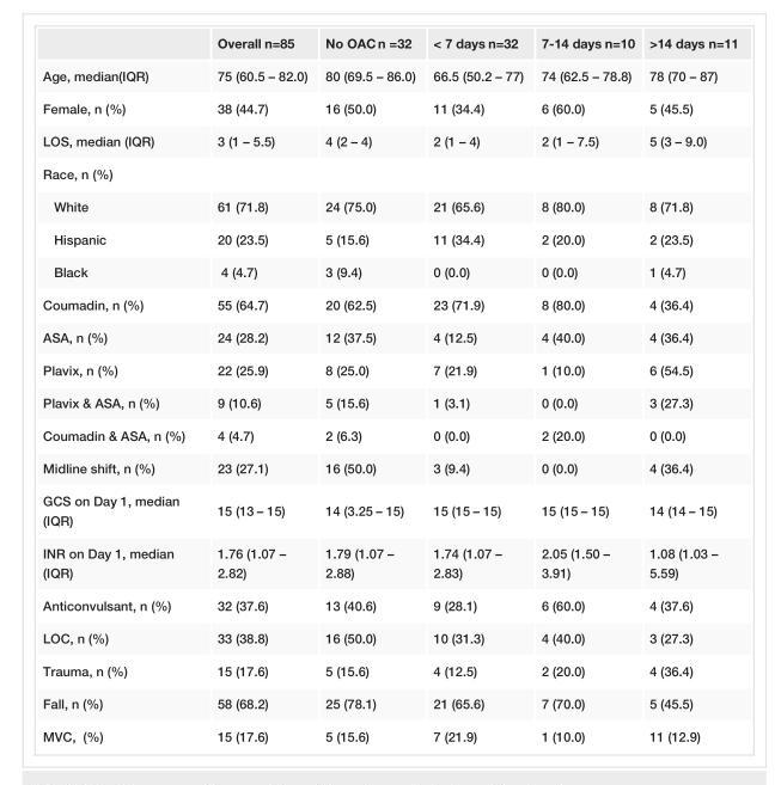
<table><thead><tr><td></td><td>Overall n=85</td><td>No OAC n =32</td><td>&lt; 7 days n=32</td><td>7-14 days n=10</td><td>&gt;14 days n=11</td></tr></thead><tbody><tr><td>Age, median(IQR)</td><td>75 (60.5 – 82.0)</td><td>80 (69.5 – 86.0)</td><td>66.5 (50.2 – 77)</td><td>74 (62.5 – 78.8)</td><td>78 (70 – 87)</td></tr><tr><td>Female, n (%)</td><td>38 (44.7)</td><td>16 (50.0)</td><td>11 (34.4)</td><td>6 (60.0)</td><td>5 (45.5)</td></tr><tr><td>LOS, median (IQR)</td><td>3 (1 – 5.5)</td><td>4 (2 – 4)</td><td>2 (1 – 4)</td><td>2 (1 – 7.5)</td><td>5 (3 – 9.0)</td></tr><tr><td colspan="6">Race, n (%)</td></tr><tr><td>White</td><td>61 (71.8)</td><td>24 (75.0)</td><td>21 (65.6)</td><td>8 (80.0)</td><td>8 (71.8)</td></tr><tr><td>Hispanic</td><td>20 (23.5)</td><td>5 (15.6)</td><td>11 (34.4)</td><td>2 (20.0)</td><td>2 (23.5)</td></tr><tr><td>Black</td><td>4 (4.7)</td><td>3 (9.4)</td><td>0 (0.0)</td><td>0 (0.0)</td><td>1 (4.7)</td></tr><tr><td>Coumadin, n (%)</td><td>55 (64.7)</td><td>20 (62.5)</td><td>23 (71.9)</td><td>8 (80.0)</td><td>4 (36.4)</td></tr><tr><td>ASA, n (%)</td><td>24 (28.2)</td><td>12 (37.5)</td><td>4 (12.5)</td><td>4 (40.0)</td><td>4 (36.4)</td></tr><tr><td>Plavix, n (%)</td><td>22 (25.9)</td><td>8 (25.0)</td><td>7 (21.9)</td><td>1 (10.0)</td><td>6 (54.5)</td></tr><tr><td>Plavix &amp; ASA, n (%)</td><td>9 (10.6)</td><td>5 (15.6)</td><td>1 (3.1)</td><td>0 (0.0)</td><td>3 (27.3)</td></tr><tr><td>Coumadin &amp; ASA, n (%)</td><td>4 (4.7)</td><td>2 (6.3)</td><td>0 (0.0)</td><td>2 (20.0)</td><td>0 (0.0)</td></tr><tr><td>Midline shift, n (%)</td><td>23 (27.1)</td><td>16 (50.0)</td><td>3 (9.4)</td><td>0 (0.0)</td><td>4 (36.4)</td></tr><tr><td>GCS on Day 1, median (IQR)</td><td>15 (13 – 15)</td><td>14 (3.25 – 15)</td><td>15 (15 – 15)</td><td>15 (15 – 15)</td><td>14 (14 – 15)</td></tr><tr><td>INR on Day 1, median (IQR)</td><td>1.76 (1.07 – 2.82)</td><td>1.79 (1.07 – 2.88)</td><td>1.74 (1.07 – 2.83)</td><td>2.05 (1.50 – 3.91)</td><td>1.08 (1.03 – 5.59)</td></tr><tr><td>Anticonvulsant, n (%)</td><td>32 (37.6)</td><td>13 (40.6)</td><td>9 (28.1)</td><td>6 (60.0)</td><td>4 (37.6)</td></tr><tr><td>LOC, n (%)</td><td>33 (38.8)</td><td>16 (50.0)</td><td>10 (31.3)</td><td>4 (40.0)</td><td>3 (27.3)</td></tr><tr><td>Trauma, n (%)</td><td>15 (17.6)</td><td>5 (15.6)</td><td>4 (12.5)</td><td>2 (20.0)</td><td>4 (36.4)</td></tr><tr><td>Fall, n (%)</td><td>58 (68.2)</td><td>25 (78.1)</td><td>21 (65.6)</td><td>7 (70.0)</td><td>5 (45.5)</td></tr><tr><td>MVC, (%)</td><td>15 (17.6)</td><td>5 (15.6)</td><td>7 (21.9)</td><td>1 (10.0)</td><td>11 (12.9)</td></tr></tbody></table>